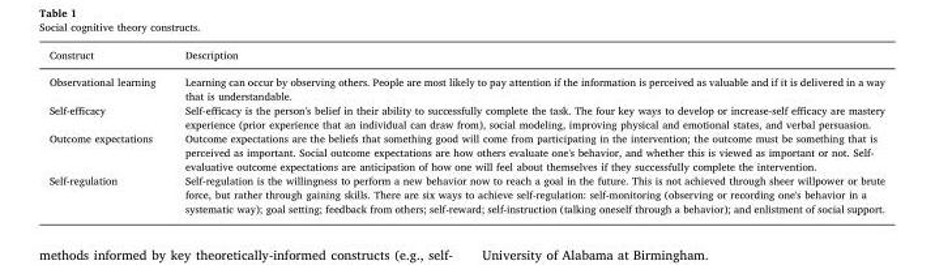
<table><thead><tr><td>Construct</td><td>Description</td></tr></thead><tbody><tr><td>Observational learning</td><td>Learning can occur by observing others. People are most likely to pay attention if the information is perceived as valuable and if it is delivered in a way that is understandable.</td></tr><tr><td>Self-efficacy</td><td>Self-efficacy is the person&#x27;s belief in their ability to successfully complete the task. The four key ways to develop or increase-self efficacy are mastery experience (prior experience that an individual can draw from), social modeling, improving physical and emotional states, and verbal persuasion.</td></tr><tr><td>Outcome expectations</td><td>Outcome expectations are the beliefs that something good will come from participating in the intervention; the outcome must be something that is perceived as important. Social outcome expectations are how others evaluate one&#x27;s behavior, and whether this is viewed as important or not. Self- evaluative outcome expectations are anticipation of how one will feel about themselves if they successfully complete the intervention.</td></tr><tr><td>Self-regulation</td><td>Self-regulation is the willingness to perform a new behavior now to reach a goal in the future. This is not achieved through sheer willpower or brute force, but rather through gaining skills. There are six ways to achieve self-regulation: self-monitoring (observing or recording one&#x27;s behavior in a systematic way); goal setting; feedback from others; self-reward; self-instruction (talking oneself through a behavior); and enlistment of social support.</td></tr></tbody></table>